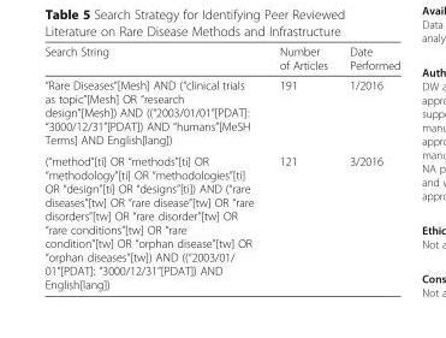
<table><thead><tr><td>Search String</td><td>Number of Articles</td><td>Date Performed</td></tr></thead><tbody><tr><td>“Rare Diseases”[Mesh] AND (“clinical trials as topic”[Mesh] OR “research design”[Mesh]) AND ((“2003/01/01”[PDAT]: “3000/12/31”[PDAT]) AND “humans”[MeSH Terms] AND English[lang])</td><td>191</td><td>1/2016</td></tr><tr><td>(“method”[ti] OR “methods”[ti] OR “methodology”[ti] OR “methodologies”[ti] OR “design”[ti] OR “designs”[ti]) AND (“rare diseases”[tw] OR “rare disease”[tw] OR “rare disorders”[tw] OR “rare disorder”[tw] OR “rare conditions”[tw] OR “rare condition”[tw] OR “orphan disease”[tw] OR “orphan diseases”[tw]) AND ((“2003/01/ 01”[PDAT]: “3000/12/31”[PDAT]) AND English[lang])</td><td>121</td><td>3/2016</td></tr></tbody></table>